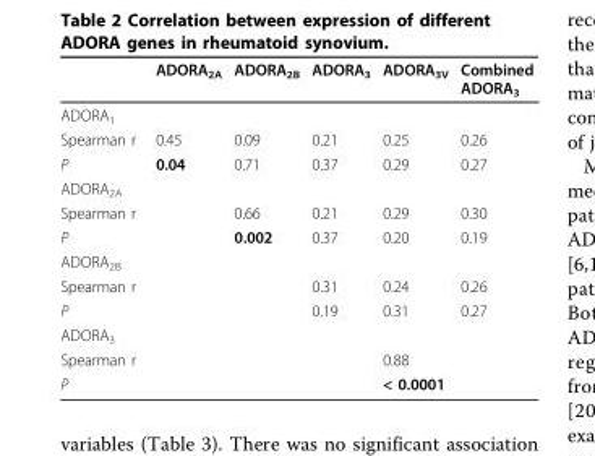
<table><thead><tr><td></td><td>ADORA<sub>2A</sub></td><td>ADORA<sub>2B</sub></td><td>ADORA<sub>3</sub></td><td>ADORA<sub>3V</sub></td><td>Combined ADORA<sub>3</sub></td></tr></thead><tbody><tr><td colspan="6">ADORA<sub>1</sub></td></tr><tr><td>Spearman r</td><td>0.45</td><td>0.09</td><td>0.21</td><td>0.25</td><td>0.26</td></tr><tr><td>P</td><td>0.04</td><td>0.71</td><td>0.37</td><td>0.29</td><td>0.27</td></tr><tr><td colspan="6">ADORA<sub>2A</sub></td></tr><tr><td>Spearman r</td><td></td><td>0.66</td><td>0.21</td><td>0.29</td><td>0.30</td></tr><tr><td>P</td><td></td><td>0.002</td><td>0.37</td><td>0.20</td><td>0.19</td></tr><tr><td colspan="6">ADORA<sub>2B</sub></td></tr><tr><td>Spearman r</td><td></td><td></td><td>0.31</td><td>0.24</td><td>0.26</td></tr><tr><td>P</td><td></td><td></td><td>0.19</td><td>0.31</td><td>0.27</td></tr><tr><td colspan="6">ADORA<sub>3</sub></td></tr><tr><td>Spearman r</td><td></td><td></td><td></td><td>0.88</td><td></td></tr><tr><td>P</td><td></td><td></td><td></td><td>&lt; 0.0001</td><td></td></tr></tbody></table>